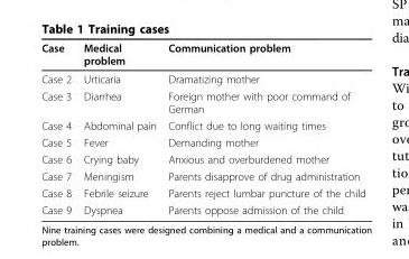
<table><thead><tr><td>Case</td><td>Medical problem</td><td>Communication problem</td></tr></thead><tbody><tr><td>Case 2</td><td>Urticaria</td><td>Dramatizing mother</td></tr><tr><td>Case 3</td><td>Diarrhea</td><td>Foreign mother with poor command of German</td></tr><tr><td>Case 4</td><td>Abdominal pain</td><td>Conflict due to long waiting times</td></tr><tr><td>Case 5</td><td>Fever</td><td>Demanding mother</td></tr><tr><td>Case 6</td><td>Crying baby</td><td>Anxious and overburdened mother</td></tr><tr><td>Case 7</td><td>Meningism</td><td>Parents disapprove of drug administration</td></tr><tr><td>Case 8</td><td>Febrile seizure</td><td>Parents reject lumbar puncture of the child</td></tr><tr><td>Case 9</td><td>Dyspnea</td><td>Parents oppose admission of the child</td></tr></tbody></table>